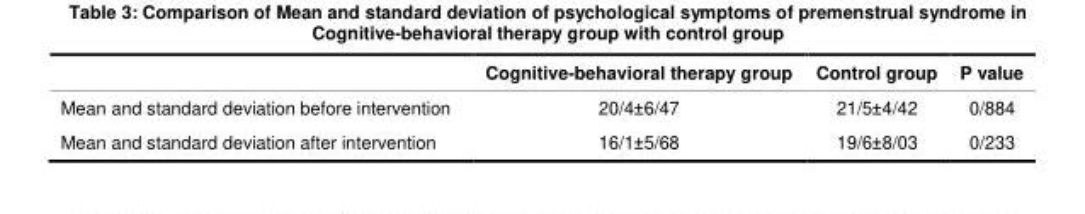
<table><thead><tr><td></td><td>Cognitive-behavioral therapy group</td><td>Control group</td><td>P value</td></tr></thead><tbody><tr><td>Mean and standard deviation before intervention</td><td>20/4±6/47</td><td>21/5±4/42</td><td>0/884</td></tr><tr><td>Mean and standard deviation after intervention</td><td>16/1±5/68</td><td>19/6±8/03</td><td>0/233</td></tr></tbody></table>